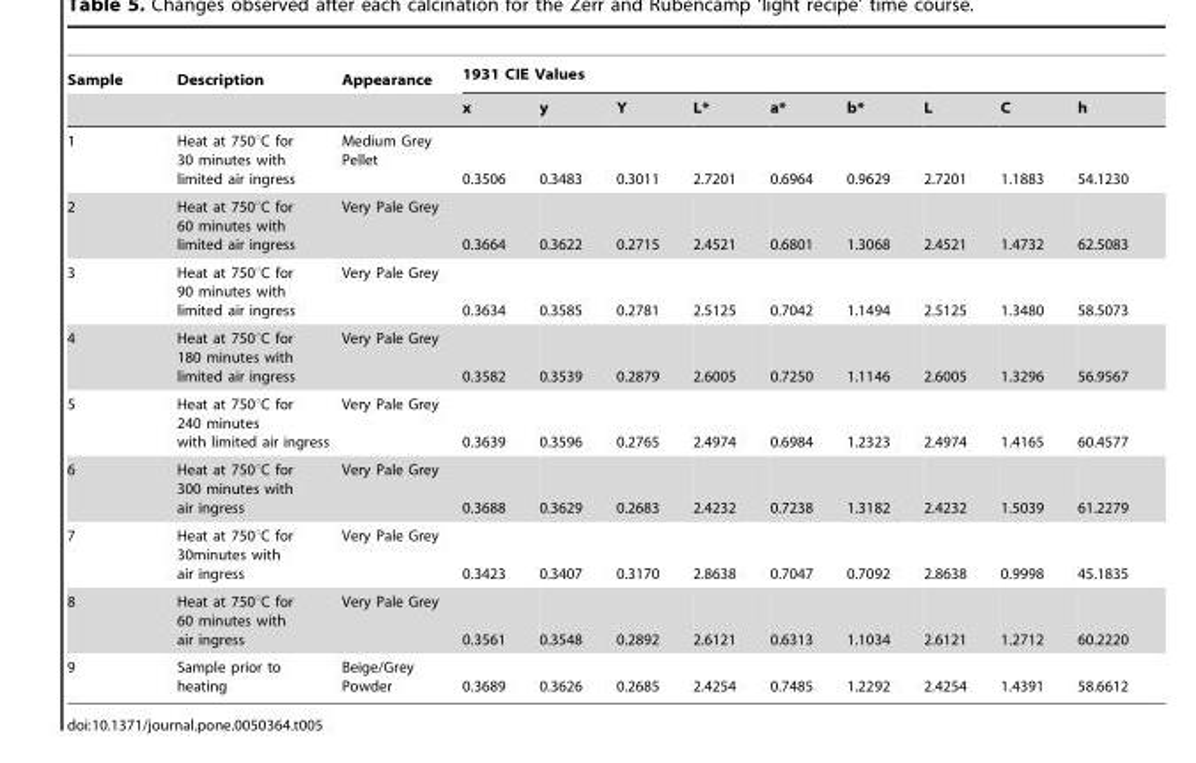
<table><thead><tr><td rowspan="2">Sample</td><td rowspan="2">Description</td><td rowspan="2">Appearance</td><td colspan="9">1931 CIE Values</td></tr><tr><td>x</td><td>y</td><td>Y</td><td>L*</td><td>a*</td><td>b*</td><td>L</td><td>C</td><td>h</td></tr></thead><tbody><tr><td>1</td><td>Heat at 750°C for 30 minutes with limited air ingress</td><td>Medium Grey Pellet</td><td>0.3506</td><td>0.3483</td><td>0.3011</td><td>2.7201</td><td>0.6964</td><td>0.9629</td><td>2.7201</td><td>1.1883</td><td>54.1230</td></tr><tr><td>2</td><td>Heat at 750°C for 60 minutes with limited air ingress</td><td>Very Pale Grey</td><td>0.3664</td><td>0.3622</td><td>0.2715</td><td>2.4521</td><td>0.6801</td><td>1.3068</td><td>2.4521</td><td>1.4732</td><td>62.5083</td></tr><tr><td>3</td><td>Heat at 750°C for 90 minutes with limited air ingress</td><td>Very Pale Grey</td><td>0.3634</td><td>0.3585</td><td>0.2781</td><td>2.5125</td><td>0.7042</td><td>1.1494</td><td>2.5125</td><td>1.3480</td><td>58.5073</td></tr><tr><td>4</td><td>Heat at 750°C for 180 minutes with limited air ingress</td><td>Very Pale Grey</td><td>0.3582</td><td>0.3539</td><td>0.2879</td><td>2.6005</td><td>0.7250</td><td>1.1146</td><td>2.6005</td><td>1.3296</td><td>56.9567</td></tr><tr><td>5</td><td>Heat at 750°C for 240 minutes with limited air ingress</td><td>Very Pale Grey</td><td>0.3639</td><td>0.3596</td><td>0.2765</td><td>2.4974</td><td>0.6984</td><td>1.2323</td><td>2.4974</td><td>1.4165</td><td>60.4577</td></tr><tr><td>6</td><td>Heat at 750°C for 300 minutes with air ingress</td><td>Very Pale Grey</td><td>0.3688</td><td>0.3629</td><td>0.2683</td><td>2.4232</td><td>0.7238</td><td>1.3182</td><td>2.4232</td><td>1.5039</td><td>61.2279</td></tr><tr><td>7</td><td>Heat at 750°C for 30minutes with air ingress</td><td>Very Pale Grey</td><td>0.3423</td><td>0.3407</td><td>0.3170</td><td>2.8638</td><td>0.7047</td><td>0.7092</td><td>2.8638</td><td>0.9998</td><td>45.1835</td></tr><tr><td>8</td><td>Heat at 750°C for 60 minutes with air ingress</td><td>Very Pale Grey</td><td>0.3561</td><td>0.3548</td><td>0.2892</td><td>2.6121</td><td>0.6313</td><td>1.1034</td><td>2.6121</td><td>1.2712</td><td>60.2220</td></tr><tr><td>9</td><td>Sample prior to heating</td><td>Beige/Grey Powder</td><td>0.3689</td><td>0.3626</td><td>0.2685</td><td>2.4254</td><td>0.7485</td><td>1.2292</td><td>2.4254</td><td>1.4391</td><td>58.6612</td></tr></tbody></table>